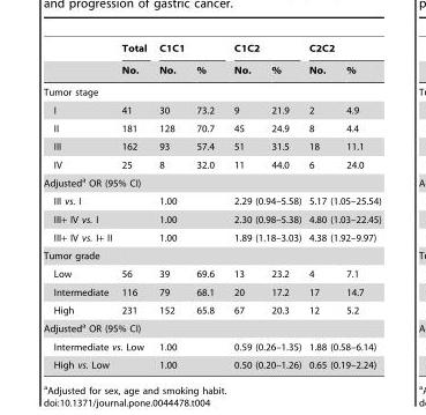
<table><thead><tr><td rowspan="2"></td><td rowspan="2">Total No.</td><td colspan="2">C1C1</td><td colspan="2">C1C2</td><td colspan="2">C2C2</td></tr><tr><td>No.</td><td>%</td><td>No.</td><td>%</td><td>No.</td><td>%</td></tr></thead><tbody><tr><td colspan="8">Tumor stage</td></tr><tr><td>I</td><td>41</td><td>30</td><td>73.2</td><td>9</td><td>21.9</td><td>2</td><td>4.9</td></tr><tr><td>II</td><td>181</td><td>128</td><td>70.7</td><td>45</td><td>24.9</td><td>8</td><td>4.4</td></tr><tr><td>III</td><td>162</td><td>93</td><td>57.4</td><td>51</td><td>31.5</td><td>18</td><td>11.1</td></tr><tr><td>IV</td><td>25</td><td>8</td><td>32.0</td><td>11</td><td>44.0</td><td>6</td><td>24.0</td></tr><tr><td colspan="8">Adjusted<sup>a</sup> OR (95% CI)</td></tr><tr><td colspan="2">III vs. I</td><td colspan="2">1.00</td><td colspan="2">2.29 (0.94–5.58)</td><td colspan="2">5.17 (1.05–25.54)</td></tr><tr><td colspan="2">III+ IV vs. I</td><td colspan="2">1.00</td><td colspan="2">2.30 (0.98–5.38)</td><td colspan="2">4.80 (1.03–22.45)</td></tr><tr><td colspan="2">III+ IV vs. I+ II</td><td colspan="2">1.00</td><td colspan="2">1.89 (1.18–3.03)</td><td colspan="2">4.38 (1.92–9.97)</td></tr><tr><td colspan="8">Tumor grade</td></tr><tr><td>Low</td><td>56</td><td>39</td><td>69.6</td><td>13</td><td>23.2</td><td>4</td><td>7.1</td></tr><tr><td>Intermediate</td><td>116</td><td>79</td><td>68.1</td><td>20</td><td>17.2</td><td>17</td><td>14.7</td></tr><tr><td>High</td><td>231</td><td>152</td><td>65.8</td><td>67</td><td>20.3</td><td>12</td><td>5.2</td></tr><tr><td colspan="8">Adjusted<sup>a</sup> OR (95% CI)</td></tr><tr><td colspan="2">Intermediate vs. Low</td><td colspan="2">1.00</td><td colspan="2">0.59 (0.26–1.35)</td><td colspan="2">1.88 (0.58–6.14)</td></tr><tr><td colspan="2">High vs. Low</td><td colspan="2">1.00</td><td colspan="2">0.50 (0.20–1.26)</td><td colspan="2">0.65 (0.19–2.24)</td></tr></tbody></table>